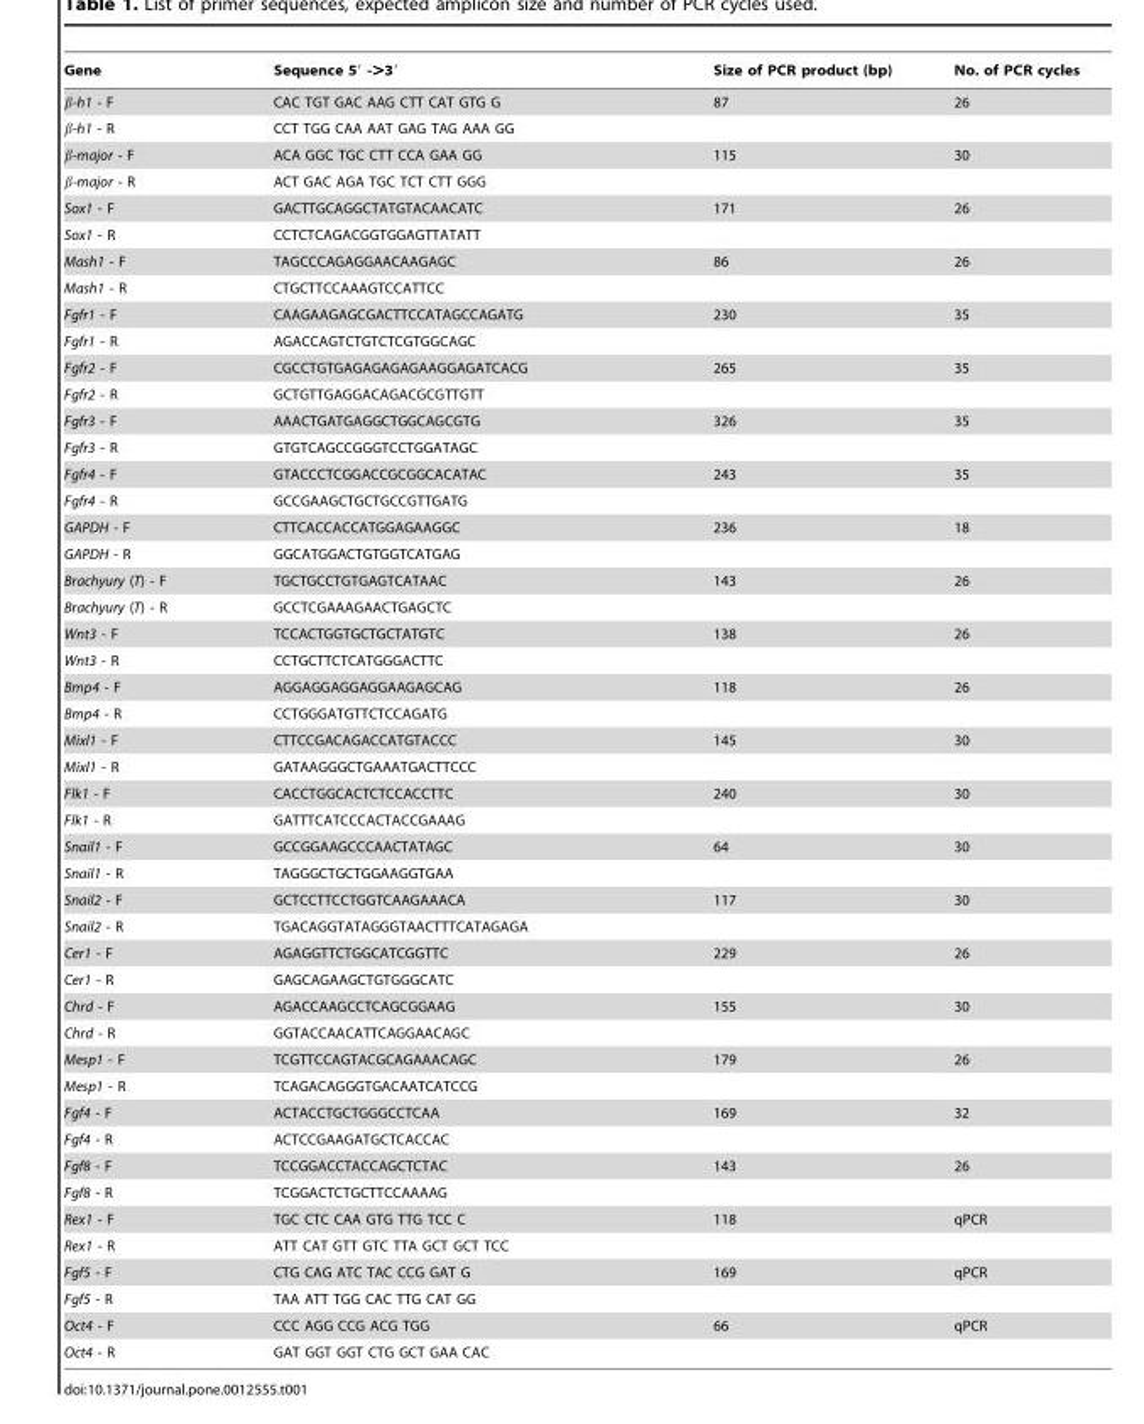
<table><thead><tr><td>Gene</td><td>Sequence 5′ -&gt;3′</td><td>Size of PCR product (bp)</td><td>No. of PCR cycles</td></tr></thead><tbody><tr><td>β-h1 - F</td><td>CAC TGT GAC AAG CTT CAT GTG G</td><td>87</td><td>26</td></tr><tr><td>β-h1 - R</td><td>CCT TGG CAA AAT GAG TAG AAA GG</td><td></td><td></td></tr><tr><td>β-major - F</td><td>ACA GGC TGC CTT CCA GAA GG</td><td>115</td><td>30</td></tr><tr><td>β-major - R</td><td>ACT GAC AGA TGC TCT CTT GGG</td><td></td><td></td></tr><tr><td>Sox1 - F</td><td>GACTTGCAGGCTATGTACAACATC</td><td>171</td><td>26</td></tr><tr><td>Sox1 - R</td><td>CCTCTCAGACGGTGGAGTTATATT</td><td></td><td></td></tr><tr><td>Mash1 - F</td><td>TAGCCCAGAGGAACAAGAGC</td><td>86</td><td>26</td></tr><tr><td>Mash1 - R</td><td>CTGCTTCCAAAGTCCATTCC</td><td></td><td></td></tr><tr><td>Fgfr1 - F</td><td>CAAGAAGAGCGACTTCCATAGCCAGATG</td><td>230</td><td>35</td></tr><tr><td>Fgfr1 - R</td><td>AGACCAGTCTGTCTCGTGGCAGC</td><td></td><td></td></tr><tr><td>Fgfr2 - F</td><td>CGCCTGTGAGAGAGAGAAGGAGATCACG</td><td>265</td><td>35</td></tr><tr><td>Fgfr2 - R</td><td>GCTGTTGAGGACAGACGCGTTGTT</td><td></td><td></td></tr><tr><td>Fgfr3 - F</td><td>AAACTGATGAGGCTGGCAGCGTG</td><td>326</td><td>35</td></tr><tr><td>Fgfr3 - R</td><td>GTGTCAGCCGGGTCCTGGATAGC</td><td></td><td></td></tr><tr><td>Fgfr4 - F</td><td>GTACCCTCGGACCGCGGCACATAC</td><td>243</td><td>35</td></tr><tr><td>Fgfr4 - R</td><td>GCCGAAGCTGCTGCCGTTGATG</td><td></td><td></td></tr><tr><td>GAPDH - F</td><td>CTTCACCACCATGGAGAAGGC</td><td>236</td><td>18</td></tr><tr><td>GAPDH - R</td><td>GGCATGGACTGTGGTCATGAG</td><td></td><td></td></tr><tr><td>Brachyury (T) - F</td><td>TGCTGCCTGTGAGTCATAAC</td><td>143</td><td>26</td></tr><tr><td>Brachyury (T) - R</td><td>GCCTCGAAAGAACTGAGCTC</td><td></td><td></td></tr><tr><td>Wnt3 - F</td><td>TCCACTGGTGCTGCTATGTC</td><td>138</td><td>26</td></tr><tr><td>Wnt3 - R</td><td>CCTGCTTCTCATGGGACTTC</td><td></td><td></td></tr><tr><td>Bmp4 - F</td><td>AGGAGGAGGAGGAAGAGCAG</td><td>118</td><td>26</td></tr><tr><td>Bmp4 - R</td><td>CCTGGGATGTTCTCCAGATG</td><td></td><td></td></tr><tr><td>Mixl1 - F</td><td>CTTCCGACAGACCATGTACCC</td><td>145</td><td>30</td></tr><tr><td>Mixl1 - R</td><td>GATAAGGGCTGAAATGACTTCCC</td><td></td><td></td></tr><tr><td>Flk1 - F</td><td>CACCTGGCACTCTCCACCTTC</td><td>240</td><td>30</td></tr><tr><td>Flk1 - R</td><td>GATTTCATCCCACTACCGAAAG</td><td></td><td></td></tr><tr><td>Snail1 - F</td><td>GCCGGAAGCCCAACTATAGC</td><td>64</td><td>30</td></tr><tr><td>Snail1 - R</td><td>TAGGGCTGCTGGAAGGTGAA</td><td></td><td></td></tr><tr><td>Snail2 - F</td><td>GCTCCTTCCTGGTCAAGAAACA</td><td>117</td><td>30</td></tr><tr><td>Snail2 - R</td><td>TGACAGGTATAGGGTAACTTTCATAGAGA</td><td></td><td></td></tr><tr><td>Cer1 - F</td><td>AGAGGTTCTGGCATCGGTTC</td><td>229</td><td>26</td></tr><tr><td>Cer1 - R</td><td>GAGCAGAAGCTGTGGGCATC</td><td></td><td></td></tr><tr><td>Chrd - F</td><td>AGACCAAGCCTCAGCGGAAG</td><td>155</td><td>30</td></tr><tr><td>Chrd - R</td><td>GGTACCAACATTCAGGAACAGC</td><td></td><td></td></tr><tr><td>Mesp1 - F</td><td>TCGTTCCAGTACGCAGAAACAGC</td><td>179</td><td>26</td></tr><tr><td>Mesp1 - R</td><td>TCAGACAGGGTGACAATCATCCG</td><td></td><td></td></tr><tr><td>Fgf4 - F</td><td>ACTACCTGCTGGGCCTCAA</td><td>169</td><td>32</td></tr><tr><td>Fgf4 - R</td><td>ACTCCGAAGATGCTCACCAC</td><td></td><td></td></tr><tr><td>Fgf8 - F</td><td>TCCGGACCTACCAGCTCTAC</td><td>143</td><td>26</td></tr><tr><td>Fgf8 - R</td><td>TCGGACTCTGCTTCCAAAAG</td><td></td><td></td></tr><tr><td>Rex1 - F</td><td>TGC CTC CAA GTG TTG TCC C</td><td>118</td><td>qPCR</td></tr><tr><td>Rex1 - R</td><td>ATT CAT GTT GTC TTA GCT GCT TCC</td><td></td><td></td></tr><tr><td>Fgf5 - F</td><td>CTG CAG ATC TAC CCG GAT G</td><td>169</td><td>qPCR</td></tr><tr><td>Fgf5 - R</td><td>TAA ATT TGG CAC TTG CAT GG</td><td></td><td></td></tr><tr><td>Oct4 - F</td><td>CCC AGG CCG ACG TGG</td><td>66</td><td>qPCR</td></tr><tr><td>Oct4 - R</td><td>GAT GGT GGT CTG GCT GAA CAC</td><td></td><td></td></tr></tbody></table>